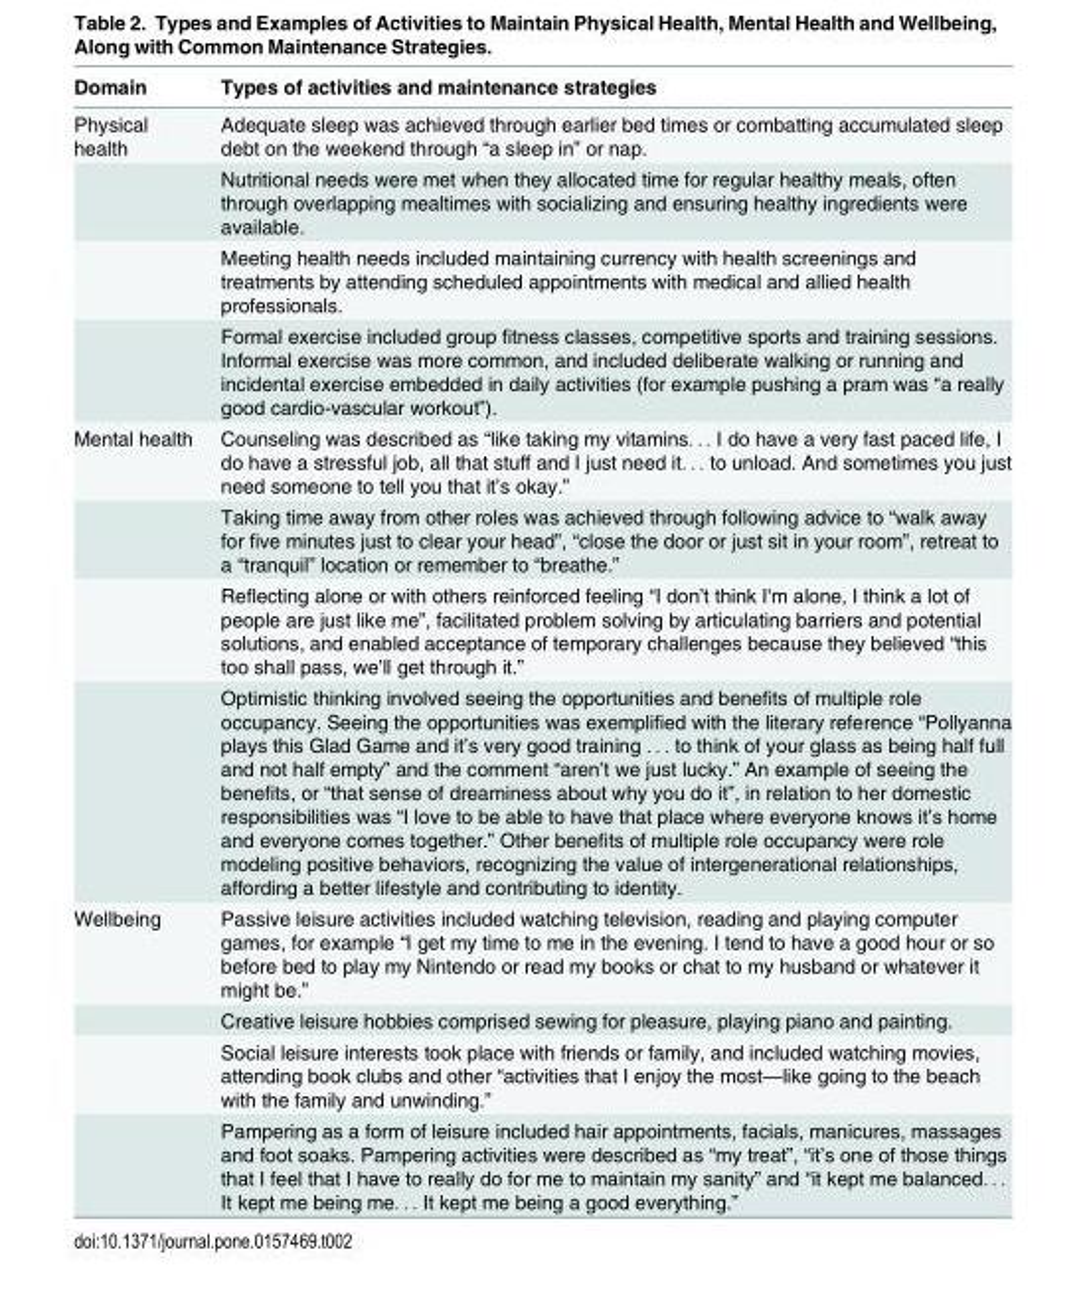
<table><thead><tr><td>Domain</td><td>Types of activities and maintenance strategies</td></tr></thead><tbody><tr><td rowspan="4">Physical health</td><td>Adequate sleep was achieved through earlier bed times or combatting accumulated sleep debt on the weekend through “a sleep in” or nap.</td></tr><tr><td>Nutritional needs were met when they allocated time for regular healthy meals, often through overlapping mealtimes with socializing and ensuring healthy ingredients were available.</td></tr><tr><td>Meeting health needs included maintaining currency with health screenings and treatments by attending scheduled appointments with medical and allied health professionals.</td></tr><tr><td>Formal exercise included group fitness classes, competitive sports and training sessions. Informal exercise was more common, and included deliberate walking or running and incidental exercise embedded in daily activities (for example pushing a pram was “a really good cardio-vascular workout”).</td></tr><tr><td rowspan="4">Mental health</td><td>Counseling was described as “like taking my vitamins. . . I do have a very fast paced life, I do have a stressful job, all that stuff and I just need it. . . to unload. And sometimes you just need someone to tell you that it’s okay.”</td></tr><tr><td>Taking time away from other roles was achieved through following advice to “walk away for five minutes just to clear your head”, “close the door or just sit in your room”, retreat to a “tranquil” location or remember to “breathe.”</td></tr><tr><td>Reflecting alone or with others reinforced feeling “I don’t think I&#x27;m alone, I think a lot of people are just like me”, facilitated problem solving by articulating barriers and potential solutions, and enabled acceptance of temporary challenges because they believed “this too shall pass, we’ll get through it.”</td></tr><tr><td>Optimistic thinking involved seeing the opportunities and benefits of multiple role occupancy. Seeing the opportunities was exemplified with the literary reference “Pollyanna plays this Glad Game and it’s very good training . . . to think of your glass as being half full and not half empty” and the comment “aren’t we just lucky.” An example of seeing the benefits, or “that sense of dreaminess about why you do it”, in relation to her domestic responsibilities was “I love to be able to have that place where everyone knows it’s home and everyone comes together.” Other benefits of multiple role occupancy were role modeling positive behaviors, recognizing the value of intergenerational relationships, affording a better lifestyle and contributing to identity.</td></tr><tr><td rowspan="4">Wellbeing</td><td>Passive leisure activities included watching television, reading and playing computer games, for example “I get my time to me in the evening. I tend to have a good hour or so before bed to play my Nintendo or read my books or chat to my husband or whatever it might be.”</td></tr><tr><td>Creative leisure hobbies comprised sewing for pleasure, playing piano and painting.</td></tr><tr><td>Social leisure interests took place with friends or family, and included watching movies, attending book clubs and other “activities that I enjoy the most—like going to the beach with the family and unwinding.”</td></tr><tr><td>Pampering as a form of leisure included hair appointments, facials, manicures, massages and foot soaks. Pampering activities were described as “my treat”, “it’s one of those things that I feel that I have to really do for me to maintain my sanity” and “it kept me balanced. . . It kept me being me. . . It kept me being a good everything.”</td></tr></tbody></table>